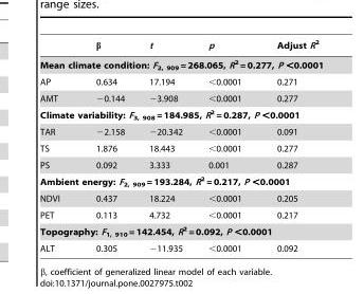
<table><thead><tr><td></td><td>β</td><td>t</td><td>p</td><td>Adjust R<sup>2</sup></td></tr></thead><tbody><tr><td colspan="5">Mean climate condition: F<sub>2, 909</sub> = 268.065, R<sup>2</sup> = 0.277, P &lt;0.0001</td></tr><tr><td>AP</td><td>0.634</td><td>17.194</td><td>&lt;0.0001</td><td>0.271</td></tr><tr><td>AMT</td><td>−0.144</td><td>−3.908</td><td>&lt;0.0001</td><td>0.277</td></tr><tr><td colspan="5">Climate variability: F<sub>3, 908</sub> = 184.985, R<sup>2</sup> = 0.287, P &lt;0.0001</td></tr><tr><td>TAR</td><td>−2.158</td><td>−20.342</td><td>&lt;0.0001</td><td>0.091</td></tr><tr><td>TS</td><td>1.876</td><td>18.443</td><td>&lt;0.0001</td><td>0.277</td></tr><tr><td>PS</td><td>0.092</td><td>3.333</td><td>0.001</td><td>0.287</td></tr><tr><td colspan="5">Ambient energy: F<sub>2, 909</sub> = 193.284, R<sup>2</sup> = 0.217, P &lt;0.0001</td></tr><tr><td>NDVI</td><td>0.437</td><td>18.224</td><td>&lt;0.0001</td><td>0.205</td></tr><tr><td>PET</td><td>0.113</td><td>4.732</td><td>&lt;0.0001</td><td>0.217</td></tr><tr><td colspan="5">Topography: F<sub>1, 910</sub> = 142.454, R<sup>2</sup> = 0.092, P &lt;0.0001</td></tr><tr><td>ALT</td><td>0.305</td><td>−11.935</td><td>&lt;0.0001</td><td>0.092</td></tr></tbody></table>